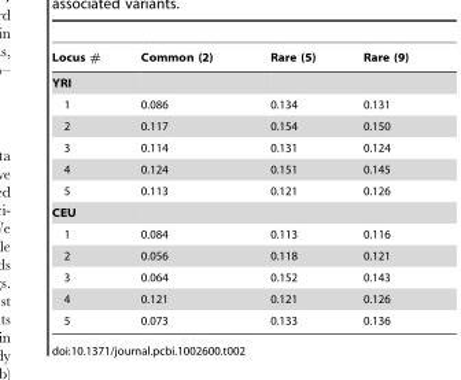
<table><thead><tr><td>Locus #</td><td>Common (2)</td><td>Rare (5)</td><td>Rare (9)</td></tr></thead><tbody><tr><td colspan="4">YRI</td></tr><tr><td>1</td><td>0.086</td><td>0.134</td><td>0.131</td></tr><tr><td>2</td><td>0.117</td><td>0.154</td><td>0.150</td></tr><tr><td>3</td><td>0.114</td><td>0.131</td><td>0.124</td></tr><tr><td>4</td><td>0.124</td><td>0.151</td><td>0.145</td></tr><tr><td>5</td><td>0.113</td><td>0.121</td><td>0.126</td></tr><tr><td colspan="4">CEU</td></tr><tr><td>1</td><td>0.084</td><td>0.113</td><td>0.116</td></tr><tr><td>2</td><td>0.056</td><td>0.118</td><td>0.121</td></tr><tr><td>3</td><td>0.064</td><td>0.152</td><td>0.143</td></tr><tr><td>4</td><td>0.121</td><td>0.121</td><td>0.126</td></tr><tr><td>5</td><td>0.073</td><td>0.133</td><td>0.136</td></tr></tbody></table>